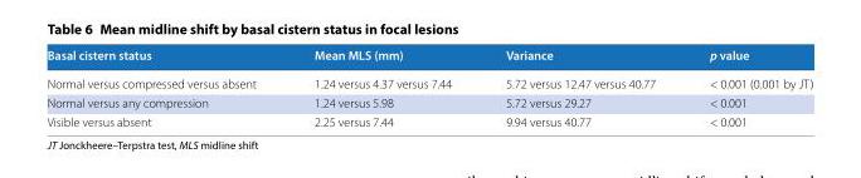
<table><thead><tr><td>Basal cistern status</td><td>Mean MLS (mm)</td><td>Variance</td><td>p value</td></tr></thead><tbody><tr><td>Normal versus compressed versus absent</td><td>1.24 versus 4.37 versus 7.44</td><td>5.72 versus 12.47 versus 40.77</td><td>&lt; 0.001 (0.001 by JT)</td></tr><tr><td>Normal versus any compression</td><td>1.24 versus 5.98</td><td>5.72 versus 29.27</td><td>&lt; 0.001</td></tr><tr><td>Visible versus absent</td><td>2.25 versus 7.44</td><td>9.94 versus 40.77</td><td>&lt; 0.001</td></tr></tbody></table>